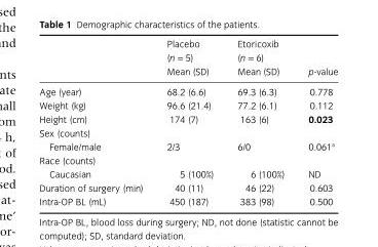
<table><thead><tr><td></td><td>Placebo (n = 5) Mean (SD)</td><td>Etoricoxib (n = 6) Mean (SD)</td><td>p-value</td></tr></thead><tbody><tr><td>Age (year)</td><td>68.2 (6.6)</td><td>69.3 (6.3)</td><td>0.778</td></tr><tr><td>Weight (kg)</td><td>96.6 (21.4)</td><td>77.2 (6.1)</td><td>0.112</td></tr><tr><td>Height (cm)</td><td>174 (7)</td><td>163 (6)</td><td>0.023</td></tr><tr><td colspan="4">Sex (counts)</td></tr><tr><td>Female/male</td><td>2/3</td><td>6/0</td><td>0.061<sup>a</sup></td></tr><tr><td colspan="4">Race (counts)</td></tr><tr><td>Caucasian</td><td>5 (100%)</td><td>6 (100%)</td><td>ND</td></tr><tr><td>Duration of surgery (min)</td><td>40 (11)</td><td>46 (22)</td><td>0.603</td></tr><tr><td>Intra-OP BL (mL)</td><td>450 (187)</td><td>383 (98)</td><td>0.500</td></tr></tbody></table>